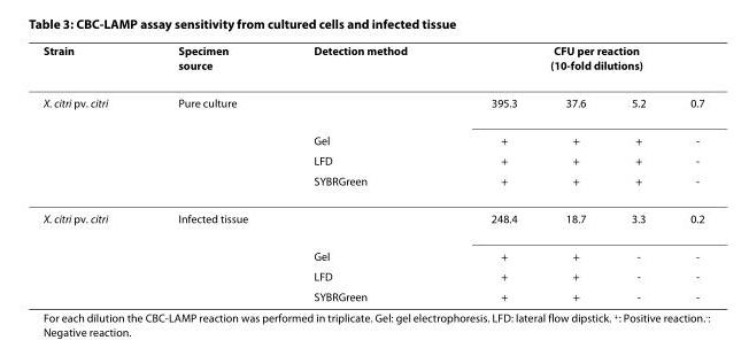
<table><thead><tr><td rowspan="2">Strain X. citri pv. citri</td><td rowspan="2">Specimen source Pure culture</td><td rowspan="2">Detection method</td><td colspan="4">CFU per reaction (10-fold dilutions)</td></tr><tr><td>395.3</td><td>37.6</td><td>5.2</td><td>0.7</td></tr></thead><tbody><tr><td></td><td></td><td>Gel</td><td>+</td><td>+</td><td>+</td><td>-</td></tr><tr><td></td><td></td><td>LFD</td><td>+</td><td>+</td><td>+</td><td>-</td></tr><tr><td></td><td></td><td>SYBRGreen</td><td>+</td><td>+</td><td>+</td><td>-</td></tr><tr><td rowspan="4">X. citri pv. citri</td><td>Infected tissue</td><td></td><td>248.4</td><td>18.7</td><td>3.3</td><td>0.2</td></tr><tr><td></td><td>Gel</td><td>+</td><td>+</td><td>-</td><td>-</td></tr><tr><td></td><td>LFD</td><td>+</td><td>+</td><td>-</td><td>-</td></tr><tr><td></td><td>SYBRGreen</td><td>+</td><td>+</td><td>-</td><td>-</td></tr></tbody></table>